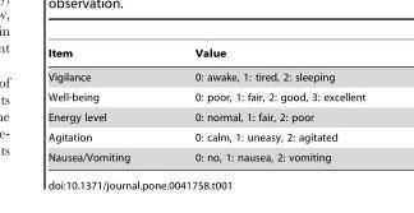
<table><thead><tr><td>Item</td><td>Value</td></tr></thead><tbody><tr><td>Vigilance</td><td>0: awake, 1: tired, 2: sleeping</td></tr><tr><td>Well-being</td><td>0: poor, 1: fair, 2: good, 3: excellent</td></tr><tr><td>Energy level</td><td>0: normal, 1: fair, 2: poor</td></tr><tr><td>Agitation</td><td>0: calm, 1: uneasy, 2: agitated</td></tr><tr><td>Nausea/Vomiting</td><td>0: no, 1: nausea, 2: vomiting</td></tr></tbody></table>